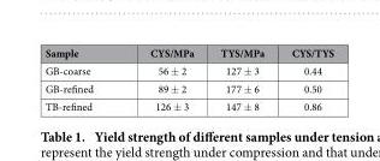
<table><thead><tr><td>Sample</td><td>CYS/MPa</td><td>TYS/MPa</td><td>CYS/TYS</td></tr></thead><tbody><tr><td>GB-coarse</td><td>56 ± 2</td><td>127 ± 3</td><td>0.44</td></tr><tr><td>GB-refined</td><td>89 ± 2</td><td>177 ± 6</td><td>0.50</td></tr><tr><td>TB-refined</td><td>126 ± 3</td><td>147 ± 8</td><td>0.86</td></tr></tbody></table>